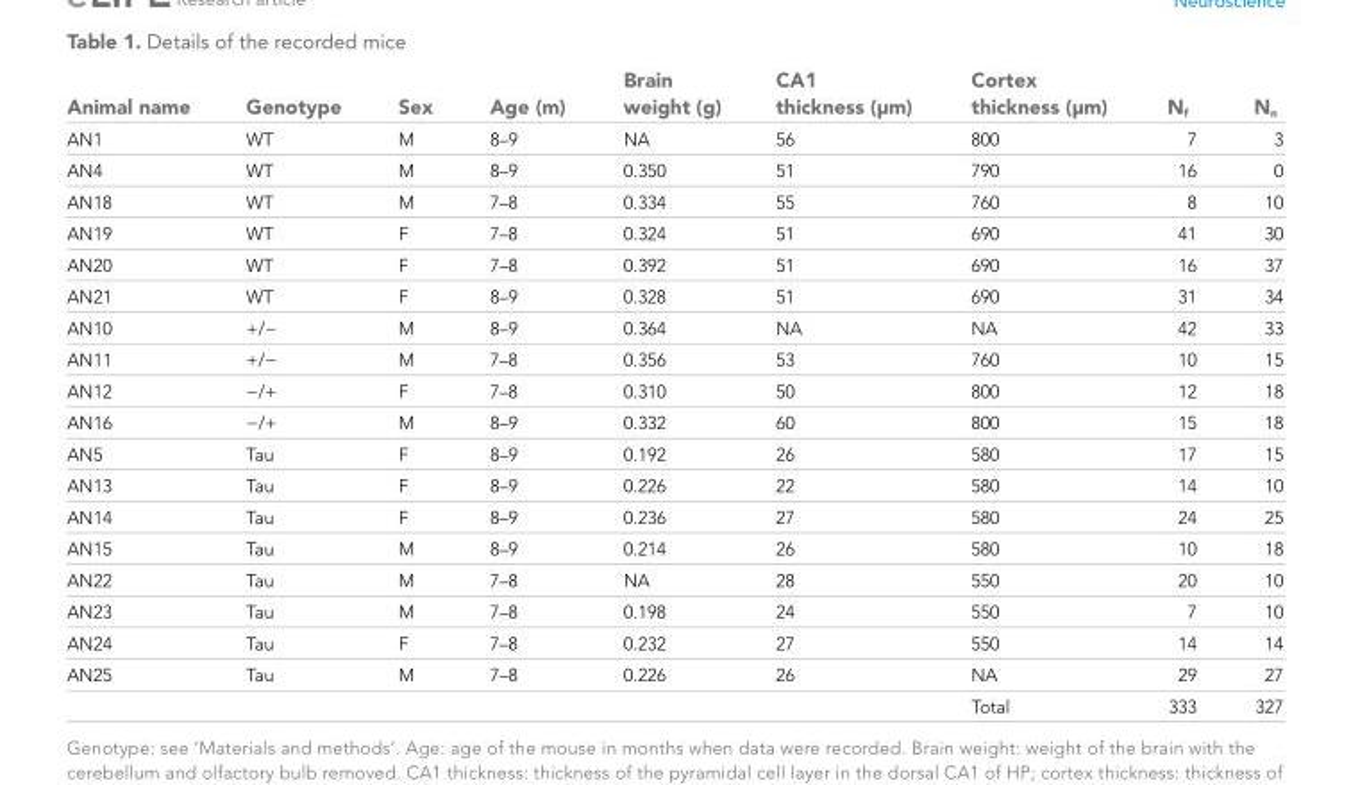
<table><thead><tr><td>Animal name</td><td>Genotype</td><td>Sex</td><td>Age (m)</td><td>Brain weight (g)</td><td>CA1 thickness (µm)</td><td>Cortex thickness (µm)</td><td>N<sub>f</sub></td><td>N<sub>n</sub></td></tr></thead><tbody><tr><td>AN1</td><td>WT</td><td>M</td><td>8–9</td><td>NA</td><td>56</td><td>800</td><td>7</td><td>3</td></tr><tr><td>AN4</td><td>WT</td><td>M</td><td>8–9</td><td>0.350</td><td>51</td><td>790</td><td>16</td><td>0</td></tr><tr><td>AN18</td><td>WT</td><td>M</td><td>7–8</td><td>0.334</td><td>55</td><td>760</td><td>8</td><td>10</td></tr><tr><td>AN19</td><td>WT</td><td>F</td><td>7–8</td><td>0.324</td><td>51</td><td>690</td><td>41</td><td>30</td></tr><tr><td>AN20</td><td>WT</td><td>F</td><td>7–8</td><td>0.392</td><td>51</td><td>690</td><td>16</td><td>37</td></tr><tr><td>AN21</td><td>WT</td><td>F</td><td>8–9</td><td>0.328</td><td>51</td><td>690</td><td>31</td><td>34</td></tr><tr><td>AN10</td><td>+/−</td><td>M</td><td>8–9</td><td>0.364</td><td>NA</td><td>NA</td><td>42</td><td>33</td></tr><tr><td>AN11</td><td>+/−</td><td>M</td><td>7–8</td><td>0.356</td><td>53</td><td>760</td><td>10</td><td>15</td></tr><tr><td>AN12</td><td>−/+</td><td>F</td><td>7–8</td><td>0.310</td><td>50</td><td>800</td><td>12</td><td>18</td></tr><tr><td>AN16</td><td>−/+</td><td>M</td><td>8–9</td><td>0.332</td><td>60</td><td>800</td><td>15</td><td>18</td></tr><tr><td>AN5</td><td>Tau</td><td>F</td><td>8–9</td><td>0.192</td><td>26</td><td>580</td><td>17</td><td>15</td></tr><tr><td>AN13</td><td>Tau</td><td>F</td><td>8–9</td><td>0.226</td><td>22</td><td>580</td><td>14</td><td>10</td></tr><tr><td>AN14</td><td>Tau</td><td>F</td><td>8–9</td><td>0.236</td><td>27</td><td>580</td><td>24</td><td>25</td></tr><tr><td>AN15</td><td>Tau</td><td>M</td><td>8–9</td><td>0.214</td><td>26</td><td>580</td><td>10</td><td>18</td></tr><tr><td>AN22</td><td>Tau</td><td>M</td><td>7–8</td><td>NA</td><td>28</td><td>550</td><td>20</td><td>10</td></tr><tr><td>AN23</td><td>Tau</td><td>M</td><td>7–8</td><td>0.198</td><td>24</td><td>550</td><td>7</td><td>10</td></tr><tr><td>AN24</td><td>Tau</td><td>F</td><td>7–8</td><td>0.232</td><td>27</td><td>550</td><td>14</td><td>14</td></tr><tr><td rowspan="2">AN25</td><td>Tau</td><td>M</td><td>7–8</td><td>0.226</td><td>26</td><td>NA</td><td>29</td><td>27</td></tr><tr><td></td><td></td><td></td><td></td><td></td><td>Total</td><td>333</td><td>327</td></tr></tbody></table>